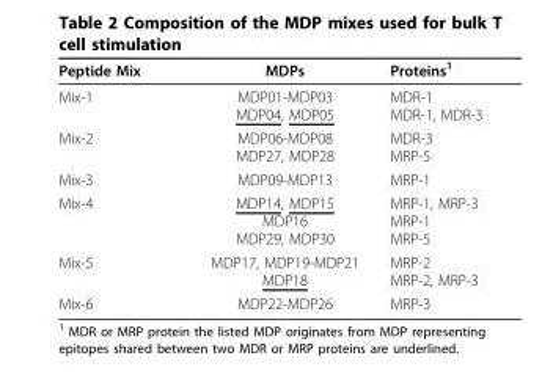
<table><thead><tr><td>Peptide Mix</td><td>MDPs</td><td>Proteins<sup>1</sup></td></tr></thead><tbody><tr><td>Mix-1</td><td>MDP01-MDP03 MDP04, MDP05</td><td>MDR-1 MDR-1, MDR-3</td></tr><tr><td>Mix-2</td><td>MDP06-MDP08 MDP27, MDP28</td><td>MDR-3 MRP-5</td></tr><tr><td>Mix-3</td><td>MDP09-MDP13</td><td>MRP-1</td></tr><tr><td>Mix-4</td><td>MDP14, MDP15 MDP16 MDP29, MDP30</td><td>MRP-1, MRP-3 MRP-1 MRP-5</td></tr><tr><td>Mix-5</td><td>MDP17, MDP19-MDP21 MDP18</td><td>MRP-2 MRP-2, MRP-3</td></tr><tr><td>Mix-6</td><td>MDP22-MDP26</td><td>MRP-3</td></tr></tbody></table>